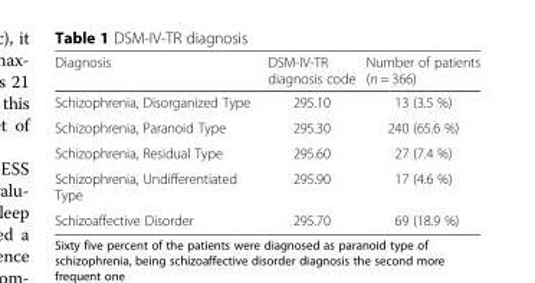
<table><thead><tr><td>Diagnosis</td><td>DSM-IV-TR diagnosis code</td><td>Number of patients (n = 366)</td></tr></thead><tbody><tr><td>Schizophrenia, Disorganized Type</td><td>295.10</td><td>13 (3.5 %)</td></tr><tr><td>Schizophrenia, Paranoid Type</td><td>295.30</td><td>240 (65.6 %)</td></tr><tr><td>Schizophrenia, Residual Type</td><td>295.60</td><td>27 (7.4 %)</td></tr><tr><td>Schizophrenia, Undifferentiated Type</td><td>295.90</td><td>17 (4.6 %)</td></tr><tr><td>Schizoaffective Disorder</td><td>295.70</td><td>69 (18.9 %)</td></tr></tbody></table>